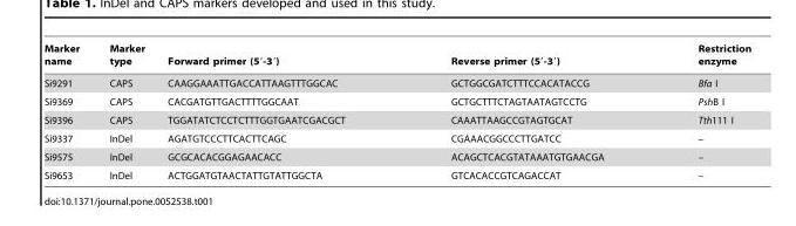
<table><thead><tr><td>Marker name</td><td>Marker type</td><td>Forward primer (5′-3′)</td><td>Reverse primer (5′-3′)</td><td>Restriction enzyme</td></tr></thead><tbody><tr><td>Si9291</td><td>CAPS</td><td>CAAGGAAATTGACCATTAAGTTTGGCAC</td><td>GCTGGCGATCTTTCCACATACCG</td><td>Bfa I</td></tr><tr><td>Si9369</td><td>CAPS</td><td>CACGATGTTGACTTTTGGCAAT</td><td>GCTGCTTTCTAGTAATAGTCCTG</td><td>PshB I</td></tr><tr><td>Si9396</td><td>CAPS</td><td>TGGATATCTCCTCTTTGGTGAATCGACGCT</td><td>CAAATTAAGCCGTAGTGCAT</td><td>Tth111 I</td></tr><tr><td>Si9337</td><td>InDel</td><td>AGATGTCCCTTCACTTCAGC</td><td>CGAAACGGCCCTTGATCC</td><td>–</td></tr><tr><td>Si9575</td><td>InDel</td><td>GCGCACACGGAGAACACC</td><td>ACAGCTCACGTATAAATGTGAACGA</td><td>–</td></tr><tr><td>Si9653</td><td>InDel</td><td>ACTGGATGTAACTATTGTATTGGCTA</td><td>GTCACACCGTCAGACCAT</td><td>–</td></tr></tbody></table>